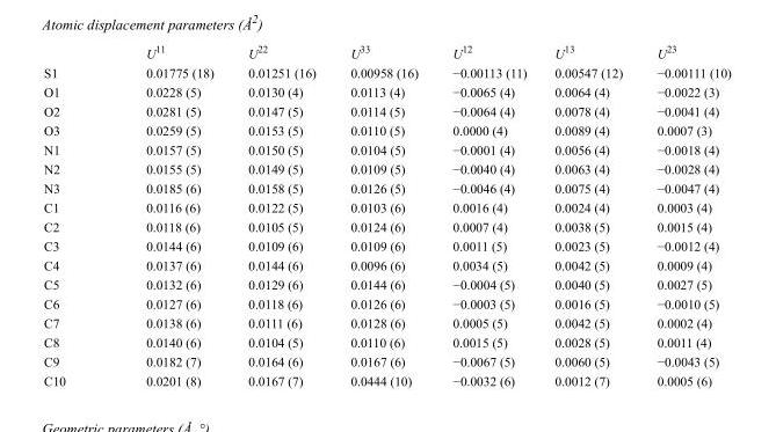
<table><thead><tr><td></td><td>U<sup>11</sup></td><td>U<sup>22</sup></td><td>U<sup>33</sup></td><td>U<sup>12</sup></td><td>U<sup>13</sup></td><td>U<sup>23</sup></td></tr></thead><tbody><tr><td>S1</td><td>0.01775 (18)</td><td>0.01251 (16)</td><td>0.00958 (16)</td><td>−0.00113 (11)</td><td>0.00547 (12)</td><td>−0.00111 (10)</td></tr><tr><td>O1</td><td>0.0228 (5)</td><td>0.0130 (4)</td><td>0.0113 (4)</td><td>−0.0065 (4)</td><td>0.0064 (4)</td><td>−0.0022 (3)</td></tr><tr><td>O2</td><td>0.0281 (5)</td><td>0.0147 (5)</td><td>0.0114 (5)</td><td>−0.0064 (4)</td><td>0.0078 (4)</td><td>−0.0041 (4)</td></tr><tr><td>O3</td><td>0.0259 (5)</td><td>0.0153 (5)</td><td>0.0110 (5)</td><td>0.0000 (4)</td><td>0.0089 (4)</td><td>0.0007 (3)</td></tr><tr><td>N1</td><td>0.0157 (5)</td><td>0.0150 (5)</td><td>0.0104 (5)</td><td>−0.0001 (4)</td><td>0.0056 (4)</td><td>−0.0018 (4)</td></tr><tr><td>N2</td><td>0.0155 (5)</td><td>0.0149 (5)</td><td>0.0109 (5)</td><td>−0.0040 (4)</td><td>0.0063 (4)</td><td>−0.0028 (4)</td></tr><tr><td>N3</td><td>0.0185 (6)</td><td>0.0158 (5)</td><td>0.0126 (5)</td><td>−0.0046 (4)</td><td>0.0075 (4)</td><td>−0.0047 (4)</td></tr><tr><td>C1</td><td>0.0116 (6)</td><td>0.0122 (5)</td><td>0.0103 (6)</td><td>0.0016 (4)</td><td>0.0024 (4)</td><td>0.0003 (4)</td></tr><tr><td>C2</td><td>0.0118 (6)</td><td>0.0105 (5)</td><td>0.0124 (6)</td><td>0.0007 (4)</td><td>0.0038 (5)</td><td>0.0015 (4)</td></tr><tr><td>C3</td><td>0.0144 (6)</td><td>0.0109 (6)</td><td>0.0109 (6)</td><td>0.0011 (5)</td><td>0.0023 (5)</td><td>−0.0012 (4)</td></tr><tr><td>C4</td><td>0.0137 (6)</td><td>0.0144 (6)</td><td>0.0096 (6)</td><td>0.0034 (5)</td><td>0.0042 (5)</td><td>0.0009 (4)</td></tr><tr><td>C5</td><td>0.0132 (6)</td><td>0.0129 (6)</td><td>0.0144 (6)</td><td>−0.0004 (5)</td><td>0.0040 (5)</td><td>0.0027 (5)</td></tr><tr><td>C6</td><td>0.0127 (6)</td><td>0.0118 (6)</td><td>0.0126 (6)</td><td>−0.0003 (5)</td><td>0.0016 (5)</td><td>−0.0010 (5)</td></tr><tr><td>C7</td><td>0.0138 (6)</td><td>0.0111 (6)</td><td>0.0128 (6)</td><td>0.0005 (5)</td><td>0.0042 (5)</td><td>0.0002 (4)</td></tr><tr><td>C8</td><td>0.0140 (6)</td><td>0.0104 (5)</td><td>0.0110 (6)</td><td>0.0015 (5)</td><td>0.0028 (5)</td><td>0.0011 (4)</td></tr><tr><td>C9</td><td>0.0182 (7)</td><td>0.0164 (6)</td><td>0.0167 (6)</td><td>−0.0067 (5)</td><td>0.0060 (5)</td><td>−0.0043 (5)</td></tr><tr><td>C10</td><td>0.0201 (8)</td><td>0.0167 (7)</td><td>0.0444 (10)</td><td>−0.0032 (6)</td><td>0.0012 (7)</td><td>0.0005 (6)</td></tr></tbody></table>